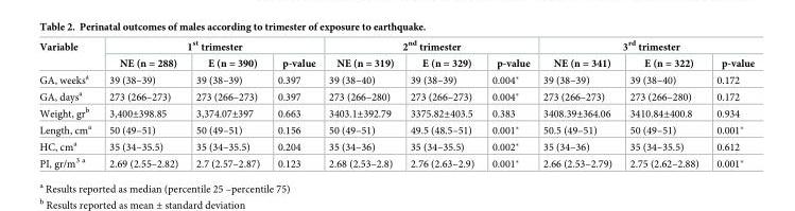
<table><thead><tr><td rowspan="2">Variable</td><td colspan="3">1<sup>st</sup> trimester</td><td colspan="3">2<sup>nd</sup> trimester</td><td colspan="3">3<sup>rd</sup> trimester</td></tr><tr><td>NE (n = 288)</td><td>E (n = 390)</td><td>p-value</td><td>NE (n = 319)</td><td>E (n = 329)</td><td>p-value</td><td>NE (n = 341)</td><td>E (n = 322)</td><td>p-value</td></tr></thead><tbody><tr><td>GA, weeks<sup>a</sup></td><td>39 (38–39)</td><td>39 (38–39)</td><td>0.397</td><td>39 (38–40)</td><td>39 (38–39)</td><td>0.004*</td><td>39 (38–39)</td><td>39 (38–40)</td><td>0.172</td></tr><tr><td>GA, days<sup>a</sup></td><td>273 (266–273)</td><td>273 (266–273)</td><td>0.397</td><td>273 (266–280)</td><td>273 (266–273)</td><td>0.004*</td><td>273 (266–273)</td><td>273 (266–280)</td><td>0.172</td></tr><tr><td>Weight, gr<sup>b</sup></td><td>3,400±398.85</td><td>3,374.07±397</td><td>0.663</td><td>3403.1±392.79</td><td>3375.82±403.5</td><td>0.383</td><td>3408.39±364.06</td><td>3410.84±400.8</td><td>0.934</td></tr><tr><td>Length, cm<sup>a</sup></td><td>50 (49–51)</td><td>50 (49–51)</td><td>0.156</td><td>50 (49–51)</td><td>49.5 (48.5–51)</td><td>0.001*</td><td>50.5 (49–51)</td><td>50 (49–51)</td><td>0.001*</td></tr><tr><td>HC, cm<sup>a</sup></td><td>35 (34–35.5)</td><td>35 (34–35.5)</td><td>0.204</td><td>35 (34–36)</td><td>35 (34–35.5)</td><td>0.002*</td><td>35 (34–36)</td><td>35 (34–35.5)</td><td>0.612</td></tr><tr><td>PI, gr/m<sup>3 a</sup></td><td>2.69 (2.55–2.82)</td><td>2.7 (2.57–2.87)</td><td>0.123</td><td>2.68 (2.53–2.8)</td><td>2.76 (2.63–2.9)</td><td>0.001*</td><td>2.66 (2.53–2.79)</td><td>2.75 (2.62–2.88)</td><td>0.001*</td></tr></tbody></table>